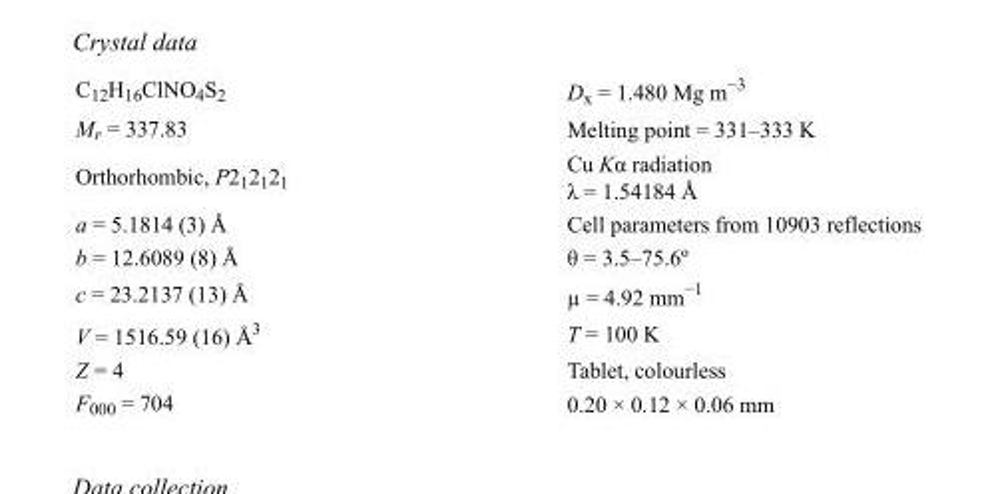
<table><tbody><tr><td>C<sub>12</sub>H<sub>16</sub>ClNO<sub>4</sub>S<sub>2</sub></td><td>D<sub>x</sub> = 1.480 Mg m<sup>−3</sup></td></tr><tr><td>M<sub>r</sub> = 337.83</td><td>Melting point = 331–333 K</td></tr><tr><td>Orthorhombic, P2<sub>1</sub>2<sub>1</sub>2<sub>1</sub></td><td>Cu Kα radiation λ = 1.54184 Å</td></tr><tr><td>a = 5.1814 (3) Å</td><td>Cell parameters from 10903 reflections</td></tr><tr><td>b = 12.6089 (8) Å</td><td>θ = 3.5–75.6º</td></tr><tr><td>c = 23.2137 (13) Å</td><td>µ = 4.92 mm<sup>−1</sup></td></tr><tr><td>V = 1516.59 (16) Å<sup>3</sup></td><td>T = 100 K</td></tr><tr><td>Z = 4</td><td>Tablet, colourless</td></tr><tr><td>F000 = 704</td><td>0.20 × 0.12 × 0.06 mm</td></tr></tbody></table>